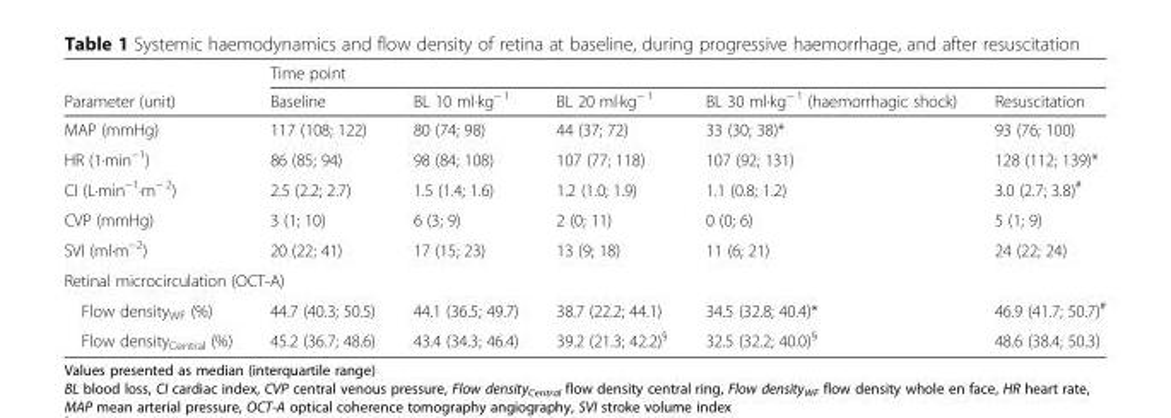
<table><thead><tr><td rowspan="2">Parameter (unit)</td><td colspan="5">Time point</td></tr><tr><td>Baseline</td><td>BL 10 ml∙kg<sup>− 1</sup></td><td>BL 20 ml∙kg<sup>− 1</sup></td><td>BL 30 ml∙kg<sup>− 1</sup> (haemorrhagic shock)</td><td>Resuscitation</td></tr></thead><tbody><tr><td>MAP (mmHg)</td><td>117 (108; 122)</td><td>80 (74; 98)</td><td>44 (37; 72)</td><td>33 (30; 38)*</td><td>93 (76; 100)</td></tr><tr><td>HR (1∙min<sup>−1</sup>)</td><td>86 (85; 94)</td><td>98 (84; 108)</td><td>107 (77; 118)</td><td>107 (92; 131)</td><td>128 (112; 139)*</td></tr><tr><td>CI (L∙min<sup>−1</sup>∙m<sup>− 2</sup>)</td><td>2.5 (2.2; 2.7)</td><td>1.5 (1.4; 1.6)</td><td>1.2 (1.0; 1.9)</td><td>1.1 (0.8; 1.2)</td><td>3.0 (2.7; 3.8)<sup>#</sup></td></tr><tr><td>CVP (mmHg)</td><td>3 (1; 10)</td><td>6 (3; 9)</td><td>2 (0; 11)</td><td>0 (0; 6)</td><td>5 (1; 9)</td></tr><tr><td>SVI (ml∙m<sup>−2</sup>)</td><td>20 (22; 41)</td><td>17 (15; 23)</td><td>13 (9; 18)</td><td>11 (6; 21)</td><td>24 (22; 24)</td></tr><tr><td colspan="6">Retinal microcirculation (OCT-A)</td></tr><tr><td>Flow density<sub>WF</sub> (%)</td><td>44.7 (40.3; 50.5)</td><td>44.1 (36.5; 49.7)</td><td>38.7 (22.2; 44.1)</td><td>34.5 (32.8; 40.4)*</td><td>46.9 (41.7; 50.7)<sup>#</sup></td></tr><tr><td>Flow density<sub>Central</sub> (%)</td><td>45.2 (36.7; 48.6)</td><td>43.4 (34.3; 46.4)</td><td>39.2 (21.3; 42.2)<sup>§</sup></td><td>32.5 (32.2; 40.0)<sup>§</sup></td><td>48.6 (38.4; 50.3)</td></tr></tbody></table>